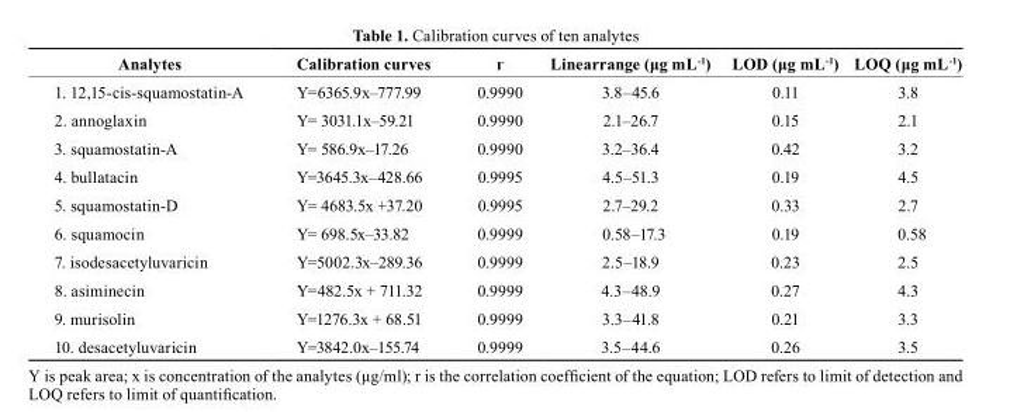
<table><thead><tr><td>Analytes</td><td>calibration curves</td><td>г</td><td>Linearrange (μg mL<sup>-1</sup>)</td><td>LOD (μg mL<sup>-1</sup>)</td><td>LOQ (μg mL<sup>-1</sup>)</td></tr></thead><tbody><tr><td>1. 12,15-cis-squamostatin-A</td><td>Y=6365.9x–777.99</td><td>0.9990</td><td>3.8–45.6</td><td>0.11</td><td>3.8</td></tr><tr><td>2. annoglaxin</td><td>Y= 3031.1x–59.21</td><td>0.9990</td><td>2.1–26.7</td><td>0.15</td><td>2.1</td></tr><tr><td>3. squamostatin-A</td><td>Y= 586.9x–17.26</td><td>0.9990</td><td>3.2–36.4</td><td>0.42</td><td>3.2</td></tr><tr><td>4. bullatacin</td><td>Y=3645.3x–428.66</td><td>0.9995</td><td>4.5–51.3</td><td>0.19</td><td>4.5</td></tr><tr><td>5. squamostatin-D</td><td>Y= 4683.5x +37.20</td><td>0.9995</td><td>2.7–29.2</td><td>0.33</td><td>2.7</td></tr><tr><td>6. squamocin</td><td>Y= 698.5x–33.82</td><td>0.9999</td><td>0.58–17.3</td><td>0.19</td><td>0.58</td></tr><tr><td>7. isodesacetyluvaricin</td><td>Y=5002.3x–289.36</td><td>0.9999</td><td>2.5–18.9</td><td>0.23</td><td>2.5</td></tr><tr><td>8. asiminecin</td><td>Y=482.5x + 711.32</td><td>0.9999</td><td>4.3–48.9</td><td>0.27</td><td>4.3</td></tr><tr><td>9. murisolin</td><td>Y=1276.3x + 68.51</td><td>0.9999</td><td>3.3–41.8</td><td>0.21</td><td>3.3</td></tr><tr><td>10. desacetyluvaricin</td><td>Y=3842.0x–155.74</td><td>0.9999</td><td>3.5–44.6</td><td>0.26</td><td>3.5</td></tr></tbody></table>